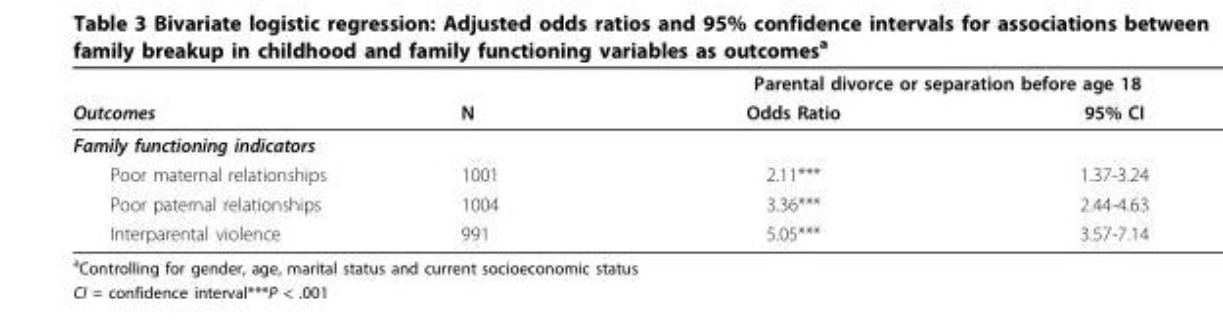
<table><thead><tr><td rowspan="2">Outcomes</td><td rowspan="2">N</td><td colspan="2">Parental divorce or separation before age 18</td></tr><tr><td>Odds Ratio</td><td>95% CI</td></tr></thead><tbody><tr><td colspan="4">Family functioning indicators</td></tr><tr><td>Poor maternal relationships</td><td>1001</td><td>2.11***</td><td>1.37-3.24</td></tr><tr><td>Poor paternal relationships</td><td>1004</td><td>3.36***</td><td>2.44-4.63</td></tr><tr><td>Interparental violence</td><td>991</td><td>5.05***</td><td>3.57-7.14</td></tr></tbody></table>